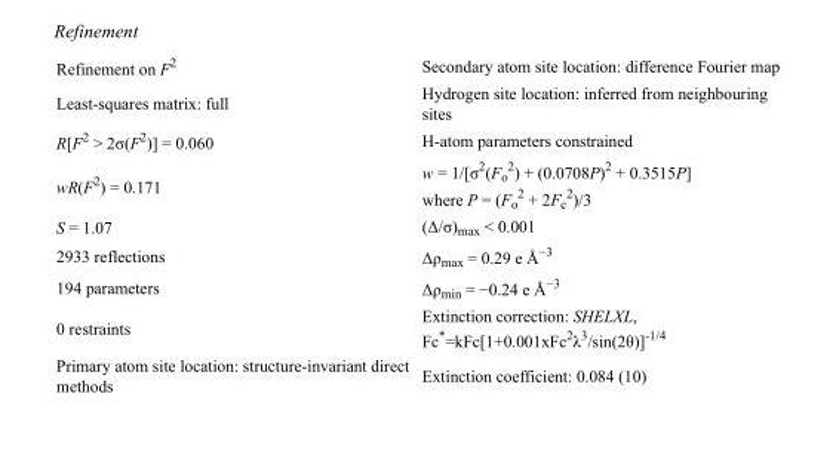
<table><tbody><tr><td>Refinement on F<sup>2</sup></td><td>Secondary atom site location: difference Fourier map</td></tr><tr><td>Least-squares matrix: full</td><td>Hydrogen site location: inferred from neighbouring sites</td></tr><tr><td>R[F<sup>2</sup> &gt; 2σ(F<sup>2</sup>)] = 0.060</td><td>H-atom parameters constrained</td></tr><tr><td>wR(F<sup>2</sup>) = 0.171</td><td>w = 1/[σ<sup>2</sup>(F<sub>o</sub> <sup>2</sup>) + (0.0708P)<sup>2</sup> + 0.3515P] where P = (F<sub>o</sub> <sup>2</sup> + 2F<sub>c</sub> <sup>2</sup>)/3</td></tr><tr><td>S = 1.07</td><td>(Δ/σ)<sub>max</sub> &lt; 0.001</td></tr><tr><td>2933 reflections</td><td>Δρ<sub>max</sub> = 0.29 e Å<sup>−3</sup></td></tr><tr><td>194 parameters</td><td>Δρ<sub>min</sub> = −0.24 e Å<sup>−3</sup></td></tr><tr><td>0 restraints</td><td>Extinction correction: SHELXL, Fc*=kFc[1+0.001xFc<sup>2</sup>λ<sup>3</sup>/sin(2θ)]<sup>-1/4</sup></td></tr><tr><td>Primary atom site location: structure-invariant direct methods</td><td>Extinction coefficient: 0.084 (10)</td></tr></tbody></table>